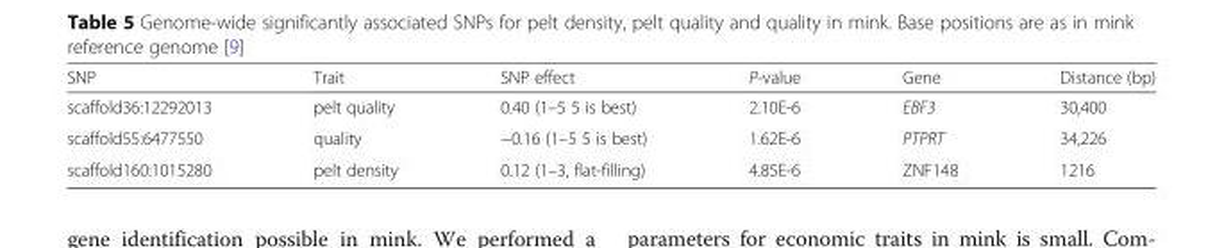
<table><thead><tr><td>SNP</td><td>Trait</td><td>SNP effect</td><td>P-value</td><td>Gene</td><td>Distance (bp)</td></tr></thead><tbody><tr><td>scaffold36:12292013</td><td>pelt quality</td><td>0.40 (1–5 5 is best)</td><td>2.10E-6</td><td>EBF3</td><td>30,400</td></tr><tr><td>scaffold55:6477550</td><td>quality</td><td>−0.16 (1–5 5 is best)</td><td>1.62E-6</td><td>PTPRT</td><td>34,226</td></tr><tr><td>scaffold160:1015280</td><td>pelt density</td><td>0.12 (1–3, flat-filling)</td><td>4.85E-6</td><td>ZNF148</td><td>1216</td></tr></tbody></table>